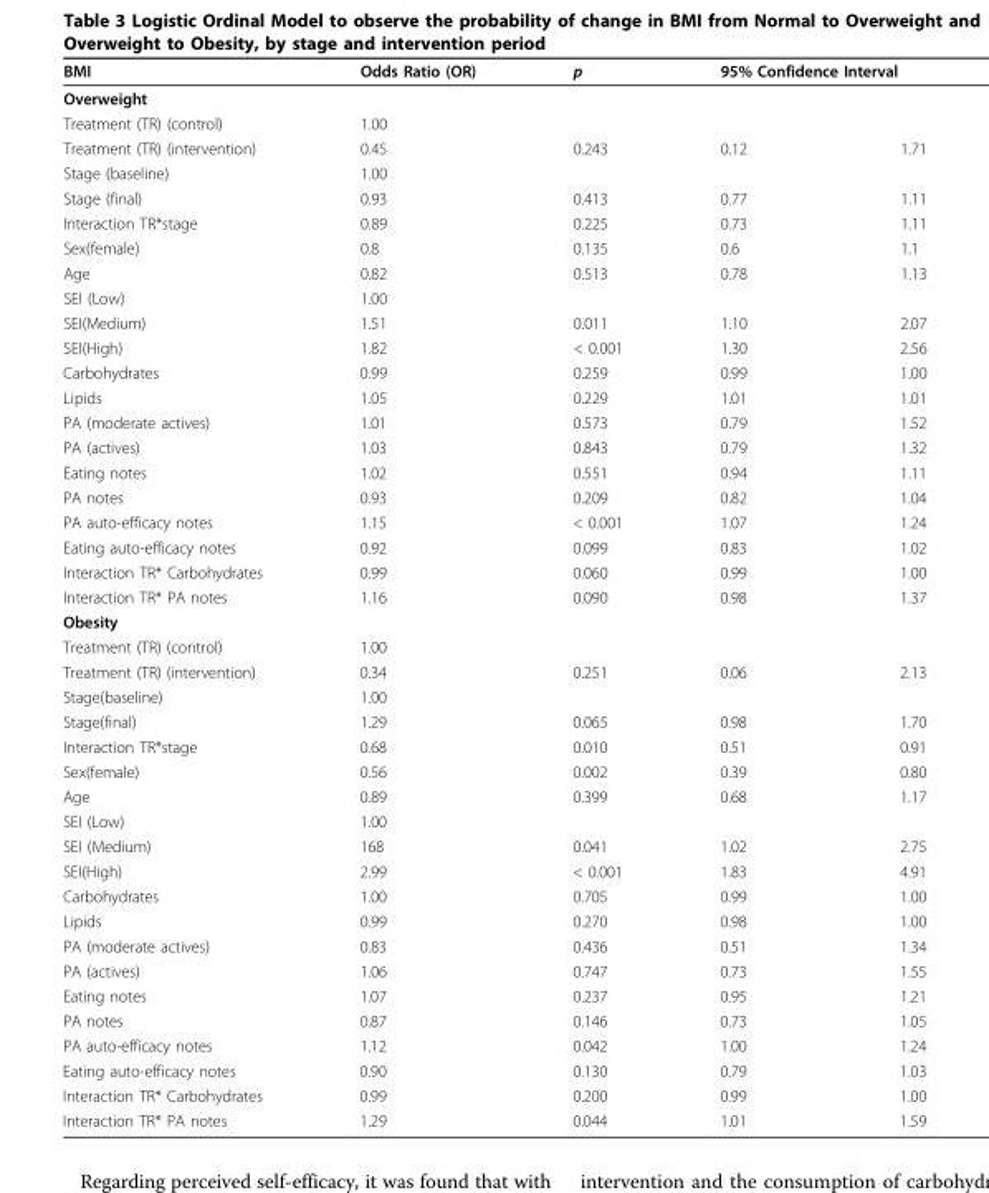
<table><thead><tr><td rowspan="2">BMI Overweight</td><td rowspan="2">Odds Ratio (OR)</td><td rowspan="2">p</td><td colspan="2">95% Confidence Interval</td></tr><tr><td></td><td></td></tr></thead><tbody><tr><td>Treatment (TR) (control)</td><td>1.00</td><td></td><td></td><td></td></tr><tr><td>Treatment (TR) (intervention)</td><td>0.45</td><td>0.243</td><td>0.12</td><td>1.71</td></tr><tr><td>Stage (baseline)</td><td>1.00</td><td></td><td></td><td></td></tr><tr><td>Stage (final)</td><td>0.93</td><td>0.413</td><td>0.77</td><td>1.11</td></tr><tr><td>Interaction TR*stage</td><td>0.89</td><td>0.225</td><td>0.73</td><td>1.11</td></tr><tr><td>Sex(female)</td><td>0.8</td><td>0.135</td><td>0.6</td><td>1.1</td></tr><tr><td>Age</td><td>0.82</td><td>0.513</td><td>0.78</td><td>1.13</td></tr><tr><td>SEI (Low)</td><td>1.00</td><td></td><td></td><td></td></tr><tr><td>SEI(Medium)</td><td>1.51</td><td>0.011</td><td>1.10</td><td>2.07</td></tr><tr><td>SEI(High)</td><td>1.82</td><td>&lt; 0.001</td><td>1.30</td><td>2.56</td></tr><tr><td>Carbohydrates</td><td>0.99</td><td>0.259</td><td>0.99</td><td>1.00</td></tr><tr><td>Lipids</td><td>1.05</td><td>0.229</td><td>1.01</td><td>1.01</td></tr><tr><td>PA (moderate actives)</td><td>1.01</td><td>0.573</td><td>0.79</td><td>1.52</td></tr><tr><td>PA (actives)</td><td>1.03</td><td>0.843</td><td>0.79</td><td>1.32</td></tr><tr><td>Eating notes</td><td>1.02</td><td>0.551</td><td>0.94</td><td>1.11</td></tr><tr><td>PA notes</td><td>0.93</td><td>0.209</td><td>0.82</td><td>1.04</td></tr><tr><td>PA auto-efficacy notes</td><td>1.15</td><td>&lt; 0.001</td><td>1.07</td><td>1.24</td></tr><tr><td>Eating auto-efficacy notes</td><td>0.92</td><td>0.099</td><td>0.83</td><td>1.02</td></tr><tr><td>Interaction TR* Carbohydrates</td><td>0.99</td><td>0.060</td><td>0.99</td><td>1.00</td></tr><tr><td>Interaction TR* PA notes</td><td>1.16</td><td>0.090</td><td>0.98</td><td>1.37</td></tr><tr><td colspan="5">Obesity</td></tr><tr><td>Treatment (TR) (control)</td><td>1.00</td><td></td><td></td><td></td></tr><tr><td>Treatment (TR) (intervention)</td><td>0.34</td><td>0.251</td><td>0.06</td><td>2.13</td></tr><tr><td>Stage(baseline)</td><td>1.00</td><td></td><td></td><td></td></tr><tr><td>Stage(final)</td><td>1.29</td><td>0.065</td><td>0.98</td><td>1.70</td></tr><tr><td>Interaction TR*stage</td><td>0.68</td><td>0.010</td><td>0.51</td><td>0.91</td></tr><tr><td>Sex(female)</td><td>0.56</td><td>0.002</td><td>0.39</td><td>0.80</td></tr><tr><td>Age</td><td>0.89</td><td>0.399</td><td>0.68</td><td>1.17</td></tr><tr><td>SEI (Low)</td><td>1.00</td><td></td><td></td><td></td></tr><tr><td>SEI (Medium)</td><td>168</td><td>0.041</td><td>1.02</td><td>2.75</td></tr><tr><td>SEI(High)</td><td>2.99</td><td>&lt; 0.001</td><td>1.83</td><td>4.91</td></tr><tr><td>Carbohydrates</td><td>1.00</td><td>0.705</td><td>0.99</td><td>1.00</td></tr><tr><td>Lipids</td><td>0.99</td><td>0.270</td><td>0.98</td><td>1.00</td></tr><tr><td>PA (moderate actives)</td><td>0.83</td><td>0.436</td><td>0.51</td><td>1.34</td></tr><tr><td>PA (actives)</td><td>1.06</td><td>0.747</td><td>0.73</td><td>1.55</td></tr><tr><td>Eating notes</td><td>1.07</td><td>0.237</td><td>0.95</td><td>1.21</td></tr><tr><td>PA notes</td><td>0.87</td><td>0.146</td><td>0.73</td><td>1.05</td></tr><tr><td>PA auto-efficacy notes</td><td>1.12</td><td>0.042</td><td>1.00</td><td>1.24</td></tr><tr><td>Eating auto-efficacy notes</td><td>0.90</td><td>0.130</td><td>0.79</td><td>1.03</td></tr><tr><td>Interaction TR* Carbohydrates</td><td>0.99</td><td>0.200</td><td>0.99</td><td>1.00</td></tr><tr><td>Interaction TR* PA notes</td><td>1.29</td><td>0.044</td><td>1.01</td><td>1.59</td></tr></tbody></table>